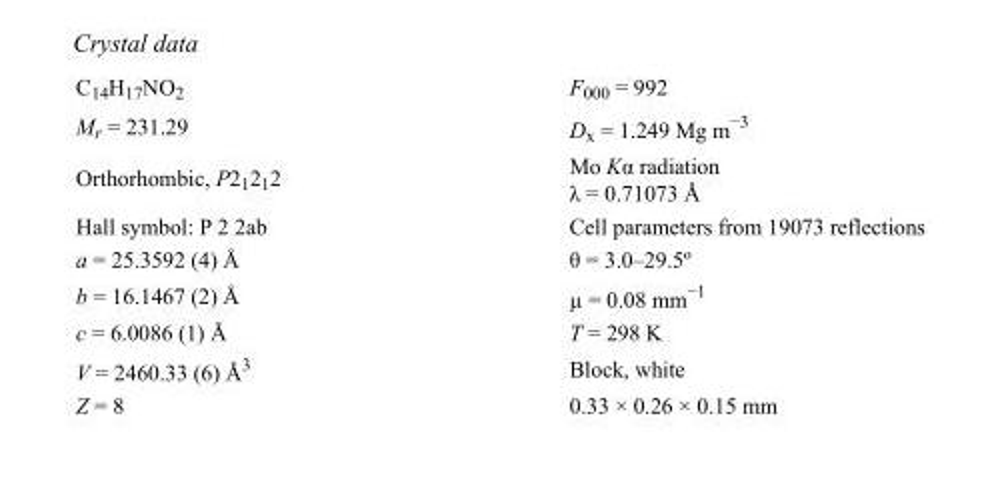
<table><tbody><tr><td>C<sub>14</sub>H<sub>17</sub>NO<sub>2</sub></td><td>F000 = 992</td></tr><tr><td>M<sub>r</sub> = 231.29</td><td>D<sub>x</sub> = 1.249 Mg m<sup>−3</sup></td></tr><tr><td>Orthorhombic, P2<sub>1</sub>2<sub>1</sub>2</td><td>Mo Kα radiation λ = 0.71073 Å</td></tr><tr><td>Hall symbol: P 2 2ab</td><td>Cell parameters from 19073 reflections</td></tr><tr><td>a = 25.3592 (4) Å</td><td>θ = 3.0–29.5º</td></tr><tr><td>b = 16.1467 (2) Å</td><td>µ = 0.08 mm<sup>−1</sup></td></tr><tr><td>c = 6.0086 (1) Å</td><td>T = 298 K</td></tr><tr><td>V = 2460.33 (6) Å<sup>3</sup></td><td>Block, white</td></tr><tr><td>Z = 8</td><td>0.33 × 0.26 × 0.15 mm</td></tr></tbody></table>